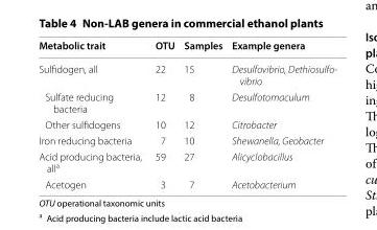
<table><thead><tr><td>Metabolic trait</td><td>OTU</td><td>Samples</td><td>Example genera</td></tr></thead><tbody><tr><td>Sulfidogen, all</td><td>22</td><td>15</td><td>Desulfovibrio, Dethiosulfo- vibrio</td></tr><tr><td>Sulfate reducing bacteria</td><td>12</td><td>8</td><td>Desulfotomaculum</td></tr><tr><td>Other sulfidogens</td><td>10</td><td>12</td><td>Citrobacter</td></tr><tr><td>Iron reducing bacteria</td><td>7</td><td>10</td><td>Shewanella, Geobacter</td></tr><tr><td>Acid producing bacteria, all<sup>a</sup></td><td>59</td><td>27</td><td>Alicyclobacillus</td></tr><tr><td>Acetogen</td><td>3</td><td>7</td><td>Acetobacterium</td></tr></tbody></table>